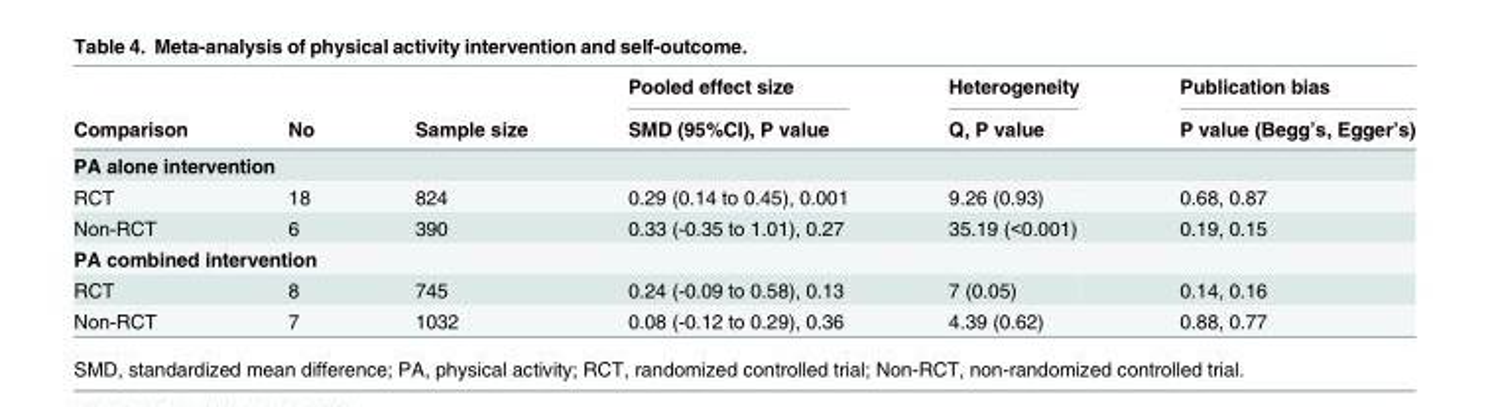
<table><thead><tr><td rowspan="2">Comparison</td><td rowspan="2">No</td><td rowspan="2">Sample size</td><td rowspan="2">Pooled effect size SMD (95%CI), P value</td><td rowspan="2">Heterogeneity Q, P value</td><td rowspan="2">Publication bias P value (Begg’s, Egger’s)</td></tr><tr></tr></thead><tbody><tr><td colspan="6">PA alone intervention</td></tr><tr><td>RCT</td><td>18</td><td>824</td><td>0.29 (0.14 to 0.45), 0.001</td><td>9.26 (0.93)</td><td>0.68, 0.87</td></tr><tr><td>Non-RCT</td><td>6</td><td>390</td><td>0.33 (-0.35 to 1.01), 0.27</td><td>35.19 (&lt;0.001)</td><td>0.19, 0.15</td></tr><tr><td colspan="6">PA combined intervention</td></tr><tr><td>RCT</td><td>8</td><td>745</td><td>0.24 (-0.09 to 0.58), 0.13</td><td>7 (0.05)</td><td>0.14, 0.16</td></tr><tr><td>Non-RCT</td><td>7</td><td>1032</td><td>0.08 (-0.12 to 0.29), 0.36</td><td>4.39 (0.62)</td><td>0.88, 0.77</td></tr></tbody></table>